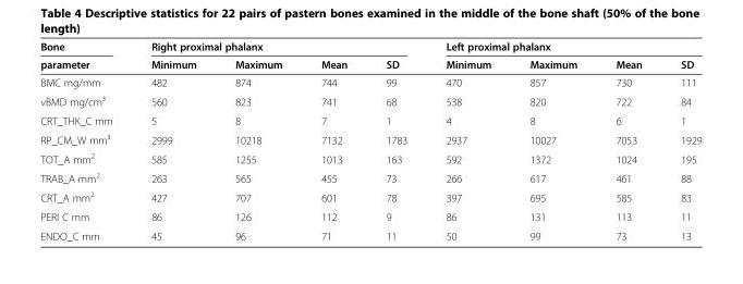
<table><thead><tr><td rowspan="2">Bone parameter</td><td colspan="4">Right proximal phalanx</td><td colspan="4">Left proximal phalanx</td></tr><tr><td>Minimum</td><td>Maximum</td><td>Mean</td><td>SD</td><td>Minimum</td><td>Maximum</td><td>Mean</td><td>SD</td></tr></thead><tbody><tr><td>BMC mg/mm</td><td>482</td><td>874</td><td>744</td><td>99</td><td>470</td><td>857</td><td>730</td><td>111</td></tr><tr><td>vBMD mg/cm³</td><td>560</td><td>823</td><td>741</td><td>68</td><td>538</td><td>820</td><td>722</td><td>84</td></tr><tr><td>CRT_THK_C mm</td><td>5</td><td>8</td><td>7</td><td>1</td><td>4</td><td>8</td><td>6</td><td>1</td></tr><tr><td>RP_CM_W mm³</td><td>2999</td><td>10218</td><td>7132</td><td>1783</td><td>2937</td><td>10027</td><td>7053</td><td>1929</td></tr><tr><td>TOT_A mm<sup>2</sup></td><td>585</td><td>1255</td><td>1013</td><td>163</td><td>592</td><td>1372</td><td>1024</td><td>195</td></tr><tr><td>TRAB_A mm<sup>2</sup></td><td>263</td><td>565</td><td>455</td><td>73</td><td>266</td><td>617</td><td>461</td><td>88</td></tr><tr><td>CRT_A mm<sup>2</sup></td><td>427</td><td>707</td><td>601</td><td>78</td><td>397</td><td>695</td><td>585</td><td>83</td></tr><tr><td>PERI C mm</td><td>86</td><td>126</td><td>112</td><td>9</td><td>86</td><td>131</td><td>113</td><td>11</td></tr><tr><td>ENDO_C mm</td><td>45</td><td>96</td><td>71</td><td>11</td><td>50</td><td>99</td><td>73</td><td>13</td></tr></tbody></table>